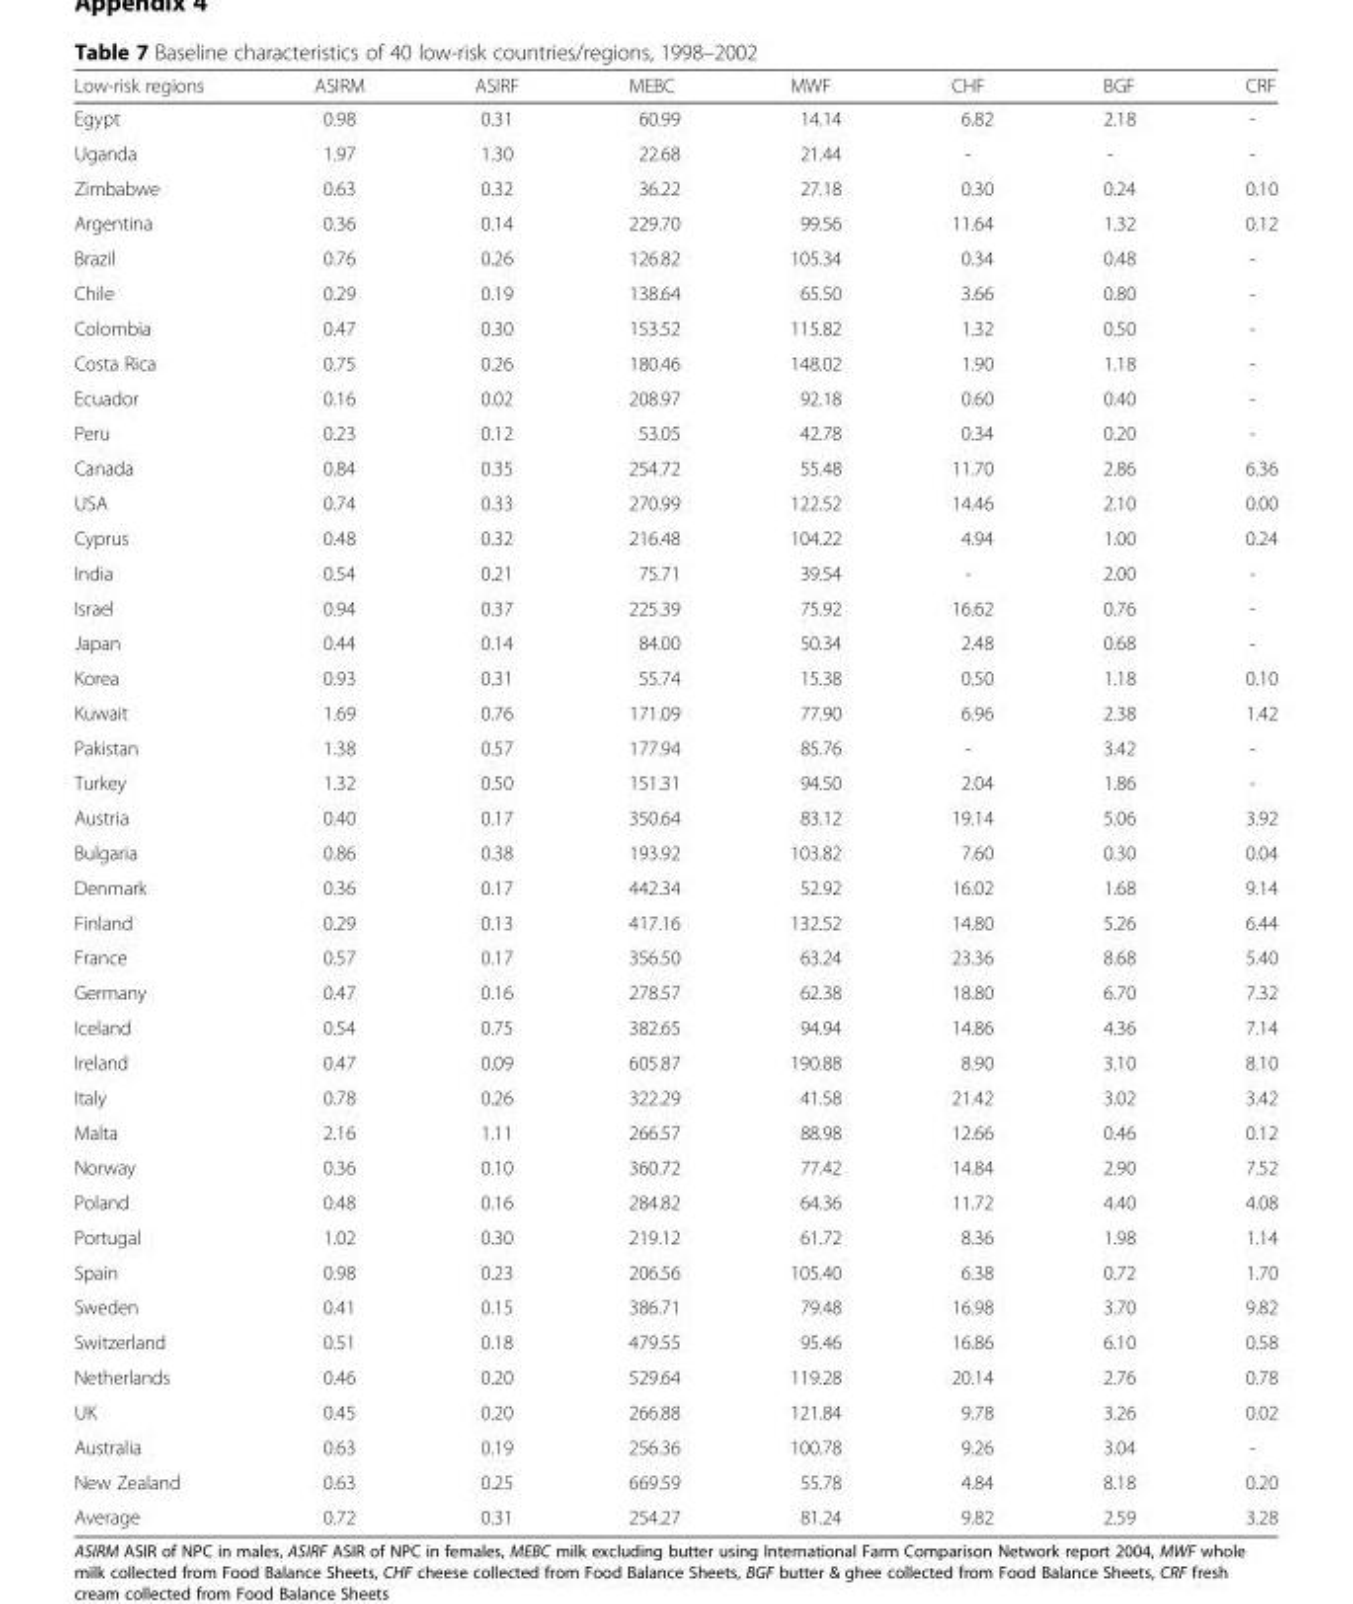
<table><thead><tr><td>Low-risk regions</td><td>ASIRM</td><td>ASIRF</td><td>MEBC</td><td>MWF</td><td>CHF</td><td>BGF</td><td>CRF</td></tr></thead><tbody><tr><td>Egypt</td><td>0.98</td><td>0.31</td><td>60.99</td><td>14.14</td><td>6.82</td><td>2.18</td><td>-</td></tr><tr><td>Uganda</td><td>1.97</td><td>1.30</td><td>22.68</td><td>21.44</td><td>-</td><td>-</td><td>-</td></tr><tr><td>Zimbabwe</td><td>0.63</td><td>0.32</td><td>36.22</td><td>27.18</td><td>0.30</td><td>0.24</td><td>0.10</td></tr><tr><td>Argentina</td><td>0.36</td><td>0.14</td><td>229.70</td><td>99.56</td><td>11.64</td><td>1.32</td><td>0.12</td></tr><tr><td>Brazil</td><td>0.76</td><td>0.26</td><td>126.82</td><td>105.34</td><td>0.34</td><td>0.48</td><td>-</td></tr><tr><td>Chile</td><td>0.29</td><td>0.19</td><td>138.64</td><td>65.50</td><td>3.66</td><td>0.80</td><td>-</td></tr><tr><td>Colombia</td><td>0.47</td><td>0.30</td><td>153.52</td><td>115.82</td><td>1.32</td><td>0.50</td><td>-</td></tr><tr><td>Costa Rica</td><td>0.75</td><td>0.26</td><td>180.46</td><td>148.02</td><td>1.90</td><td>1.18</td><td>-</td></tr><tr><td>Ecuador</td><td>0.16</td><td>0.02</td><td>208.97</td><td>92.18</td><td>0.60</td><td>0.40</td><td>-</td></tr><tr><td>Peru</td><td>0.23</td><td>0.12</td><td>53.05</td><td>42.78</td><td>0.34</td><td>0.20</td><td>-</td></tr><tr><td>Canada</td><td>0.84</td><td>0.35</td><td>254.72</td><td>55.48</td><td>11.70</td><td>2.86</td><td>6.36</td></tr><tr><td>USA</td><td>0.74</td><td>0.33</td><td>270.99</td><td>122.52</td><td>14.46</td><td>2.10</td><td>0.00</td></tr><tr><td>Cyprus</td><td>0.48</td><td>0.32</td><td>216.48</td><td>104.22</td><td>4.94</td><td>1.00</td><td>0.24</td></tr><tr><td>India</td><td>0.54</td><td>0.21</td><td>75.71</td><td>39.54</td><td>-</td><td>2.00</td><td>-</td></tr><tr><td>Israel</td><td>0.94</td><td>0.37</td><td>225.39</td><td>75.92</td><td>16.62</td><td>0.76</td><td>-</td></tr><tr><td>Japan</td><td>0.44</td><td>0.14</td><td>84.00</td><td>50.34</td><td>2.48</td><td>0.68</td><td>-</td></tr><tr><td>Korea</td><td>0.93</td><td>0.31</td><td>55.74</td><td>15.38</td><td>0.50</td><td>1.18</td><td>0.10</td></tr><tr><td>Kuwait</td><td>1.69</td><td>0.76</td><td>171.09</td><td>77.90</td><td>6.96</td><td>2.38</td><td>1.42</td></tr><tr><td>Pakistan</td><td>1.38</td><td>0.57</td><td>177.94</td><td>85.76</td><td>-</td><td>3.42</td><td>-</td></tr><tr><td>Turkey</td><td>1.32</td><td>0.50</td><td>151.31</td><td>94.50</td><td>2.04</td><td>1.86</td><td>-</td></tr><tr><td>Austria</td><td>0.40</td><td>0.17</td><td>350.64</td><td>83.12</td><td>19.14</td><td>5.06</td><td>3.92</td></tr><tr><td>Bulgaria</td><td>0.86</td><td>0.38</td><td>193.92</td><td>103.82</td><td>7.60</td><td>0.30</td><td>0.04</td></tr><tr><td>Denmark</td><td>0.36</td><td>0.17</td><td>442.34</td><td>52.92</td><td>16.02</td><td>1.68</td><td>9.14</td></tr><tr><td>Finland</td><td>0.29</td><td>0.13</td><td>417.16</td><td>132.52</td><td>14.80</td><td>5.26</td><td>6.44</td></tr><tr><td>France</td><td>0.57</td><td>0.17</td><td>356.50</td><td>63.24</td><td>23.36</td><td>8.68</td><td>5.40</td></tr><tr><td>Germany</td><td>0.47</td><td>0.16</td><td>278.57</td><td>62.38</td><td>18.80</td><td>6.70</td><td>7.32</td></tr><tr><td>Iceland</td><td>0.54</td><td>0.75</td><td>382.65</td><td>94.94</td><td>14.86</td><td>4.36</td><td>7.14</td></tr><tr><td>Ireland</td><td>0.47</td><td>0.09</td><td>605.87</td><td>190.88</td><td>8.90</td><td>3.10</td><td>8.10</td></tr><tr><td>Italy</td><td>0.78</td><td>0.26</td><td>322.29</td><td>41.58</td><td>21.42</td><td>3.02</td><td>3.42</td></tr><tr><td>Malta</td><td>2.16</td><td>1.11</td><td>266.57</td><td>88.98</td><td>12.66</td><td>0.46</td><td>0.12</td></tr><tr><td>Norway</td><td>0.36</td><td>0.10</td><td>360.72</td><td>77.42</td><td>14.84</td><td>2.90</td><td>7.52</td></tr><tr><td>Poland</td><td>0.48</td><td>0.16</td><td>284.82</td><td>64.36</td><td>11.72</td><td>4.40</td><td>4.08</td></tr><tr><td>Portugal</td><td>1.02</td><td>0.30</td><td>219.12</td><td>61.72</td><td>8.36</td><td>1.98</td><td>1.14</td></tr><tr><td>Spain</td><td>0.98</td><td>0.23</td><td>206.56</td><td>105.40</td><td>6.38</td><td>0.72</td><td>1.70</td></tr><tr><td>Sweden</td><td>0.41</td><td>0.15</td><td>386.71</td><td>79.48</td><td>16.98</td><td>3.70</td><td>9.82</td></tr><tr><td>Switzerland</td><td>0.51</td><td>0.18</td><td>479.55</td><td>95.46</td><td>16.86</td><td>6.10</td><td>0.58</td></tr><tr><td>Netherlands</td><td>0.46</td><td>0.20</td><td>529.64</td><td>119.28</td><td>20.14</td><td>2.76</td><td>0.78</td></tr><tr><td>UK</td><td>0.45</td><td>0.20</td><td>266.88</td><td>121.84</td><td>9.78</td><td>3.26</td><td>0.02</td></tr><tr><td>Australia</td><td>0.63</td><td>0.19</td><td>256.36</td><td>100.78</td><td>9.26</td><td>3.04</td><td>-</td></tr><tr><td>New Zealand</td><td>0.63</td><td>0.25</td><td>669.59</td><td>55.78</td><td>4.84</td><td>8.18</td><td>0.20</td></tr><tr><td>Average</td><td>0.72</td><td>0.31</td><td>254.27</td><td>81.24</td><td>9.82</td><td>2.59</td><td>3.28</td></tr></tbody></table>